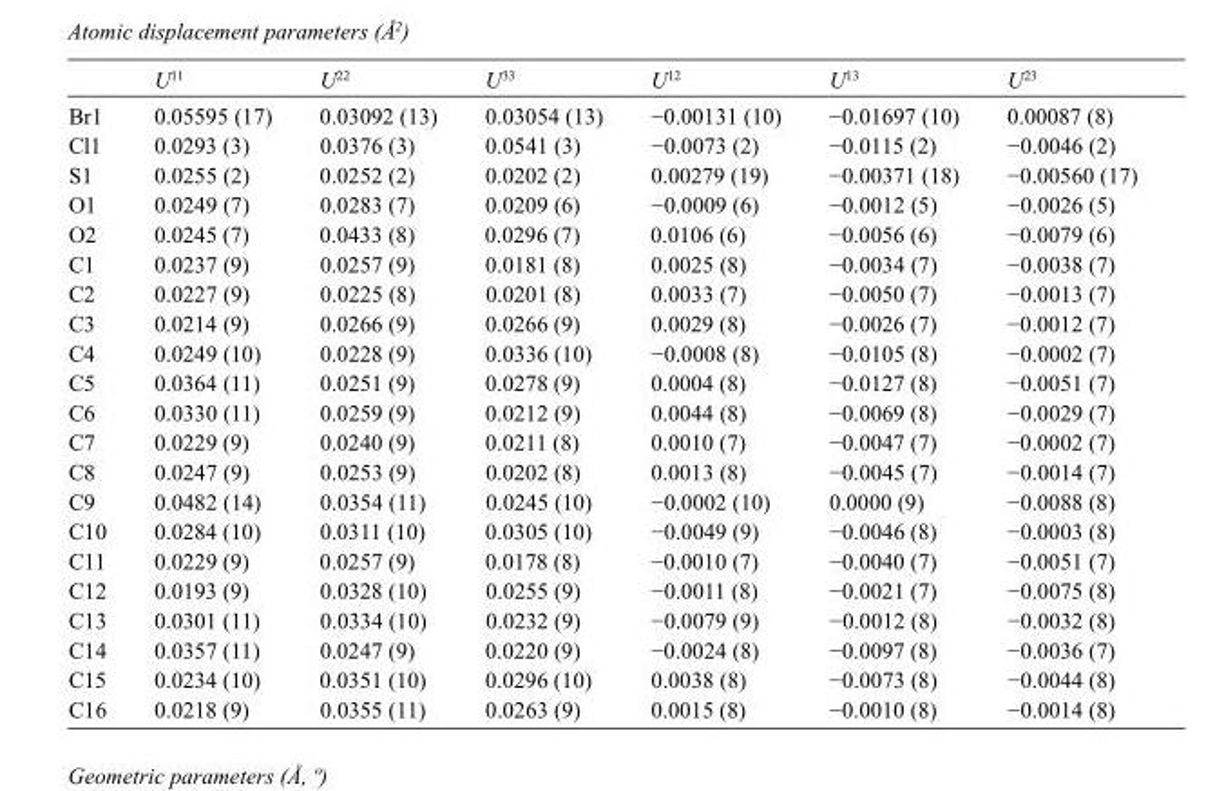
<table><thead><tr><td></td><td>U<sup>11</sup></td><td>U<sup>22</sup></td><td>U<sup>33</sup></td><td>U<sup>12</sup></td><td>U<sup>13</sup></td><td>U<sup>23</sup></td></tr></thead><tbody><tr><td>Br1</td><td>0.05595 (17)</td><td>0.03092 (13)</td><td>0.03054 (13)</td><td>−0.00131 (10)</td><td>−0.01697 (10)</td><td>0.00087 (8)</td></tr><tr><td>Cl1</td><td>0.0293 (3)</td><td>0.0376 (3)</td><td>0.0541 (3)</td><td>−0.0073 (2)</td><td>−0.0115 (2)</td><td>−0.0046 (2)</td></tr><tr><td>S1</td><td>0.0255 (2)</td><td>0.0252 (2)</td><td>0.0202 (2)</td><td>0.00279 (19)</td><td>−0.00371 (18)</td><td>−0.00560 (17)</td></tr><tr><td>O1</td><td>0.0249 (7)</td><td>0.0283 (7)</td><td>0.0209 (6)</td><td>−0.0009 (6)</td><td>−0.0012 (5)</td><td>−0.0026 (5)</td></tr><tr><td>O2</td><td>0.0245 (7)</td><td>0.0433 (8)</td><td>0.0296 (7)</td><td>0.0106 (6)</td><td>−0.0056 (6)</td><td>−0.0079 (6)</td></tr><tr><td>C1</td><td>0.0237 (9)</td><td>0.0257 (9)</td><td>0.0181 (8)</td><td>0.0025 (8)</td><td>−0.0034 (7)</td><td>−0.0038 (7)</td></tr><tr><td>C2</td><td>0.0227 (9)</td><td>0.0225 (8)</td><td>0.0201 (8)</td><td>0.0033 (7)</td><td>−0.0050 (7)</td><td>−0.0013 (7)</td></tr><tr><td>C3</td><td>0.0214 (9)</td><td>0.0266 (9)</td><td>0.0266 (9)</td><td>0.0029 (8)</td><td>−0.0026 (7)</td><td>−0.0012 (7)</td></tr><tr><td>C4</td><td>0.0249 (10)</td><td>0.0228 (9)</td><td>0.0336 (10)</td><td>−0.0008 (8)</td><td>−0.0105 (8)</td><td>−0.0002 (7)</td></tr><tr><td>C5</td><td>0.0364 (11)</td><td>0.0251 (9)</td><td>0.0278 (9)</td><td>0.0004 (8)</td><td>−0.0127 (8)</td><td>−0.0051 (7)</td></tr><tr><td>C6</td><td>0.0330 (11)</td><td>0.0259 (9)</td><td>0.0212 (9)</td><td>0.0044 (8)</td><td>−0.0069 (8)</td><td>−0.0029 (7)</td></tr><tr><td>C7</td><td>0.0229 (9)</td><td>0.0240 (9)</td><td>0.0211 (8)</td><td>0.0010 (7)</td><td>−0.0047 (7)</td><td>−0.0002 (7)</td></tr><tr><td>C8</td><td>0.0247 (9)</td><td>0.0253 (9)</td><td>0.0202 (8)</td><td>0.0013 (8)</td><td>−0.0045 (7)</td><td>−0.0014 (7)</td></tr><tr><td>C9</td><td>0.0482 (14)</td><td>0.0354 (11)</td><td>0.0245 (10)</td><td>−0.0002 (10)</td><td>0.0000 (9)</td><td>−0.0088 (8)</td></tr><tr><td>C10</td><td>0.0284 (10)</td><td>0.0311 (10)</td><td>0.0305 (10)</td><td>−0.0049 (9)</td><td>−0.0046 (8)</td><td>−0.0003 (8)</td></tr><tr><td>C11</td><td>0.0229 (9)</td><td>0.0257 (9)</td><td>0.0178 (8)</td><td>−0.0010 (7)</td><td>−0.0040 (7)</td><td>−0.0051 (7)</td></tr><tr><td>C12</td><td>0.0193 (9)</td><td>0.0328 (10)</td><td>0.0255 (9)</td><td>−0.0011 (8)</td><td>−0.0021 (7)</td><td>−0.0075 (8)</td></tr><tr><td>C13</td><td>0.0301 (11)</td><td>0.0334 (10)</td><td>0.0232 (9)</td><td>−0.0079 (9)</td><td>−0.0012 (8)</td><td>−0.0032 (8)</td></tr><tr><td>C14</td><td>0.0357 (11)</td><td>0.0247 (9)</td><td>0.0220 (9)</td><td>−0.0024 (8)</td><td>−0.0097 (8)</td><td>−0.0036 (7)</td></tr><tr><td>C15</td><td>0.0234 (10)</td><td>0.0351 (10)</td><td>0.0296 (10)</td><td>0.0038 (8)</td><td>−0.0073 (8)</td><td>−0.0044 (8)</td></tr><tr><td>C16</td><td>0.0218 (9)</td><td>0.0355 (11)</td><td>0.0263 (9)</td><td>0.0015 (8)</td><td>−0.0010 (8)</td><td>−0.0014 (8)</td></tr></tbody></table>